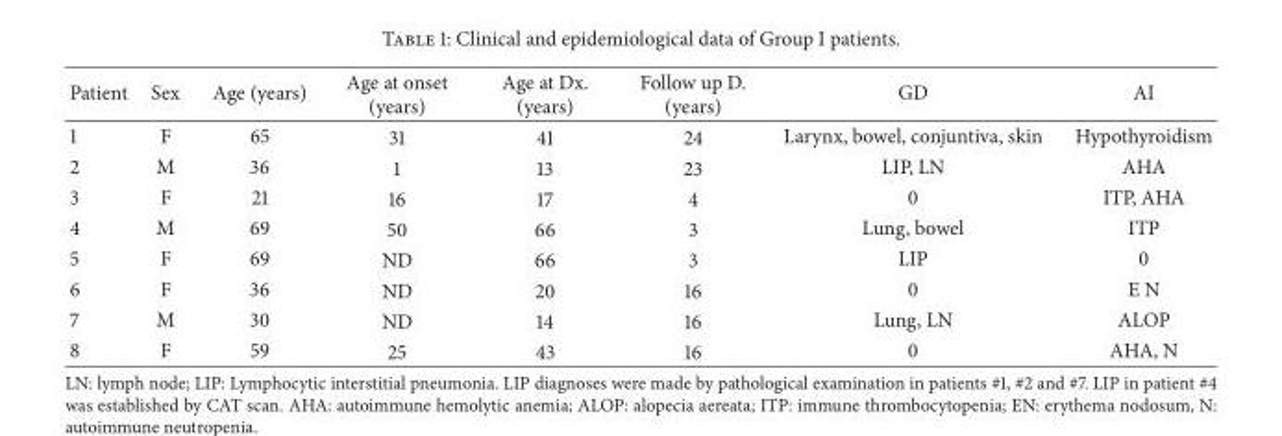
<table><thead><tr><td>Patient</td><td>Sex</td><td>Age (years)</td><td>Age at onset (years)</td><td>Age at Dx. (years)</td><td>Follow up D. (years)</td><td>GD</td><td>AI</td></tr></thead><tbody><tr><td>1</td><td>F</td><td>65</td><td>31</td><td>41</td><td>24</td><td>Larynx, bowel, conjuntiva, skin</td><td>Hypothyroidism</td></tr><tr><td>2</td><td>M</td><td>36</td><td>1</td><td>13</td><td>23</td><td>LIP, LN</td><td>AHA</td></tr><tr><td>3</td><td>F</td><td>21</td><td>16</td><td>17</td><td>4</td><td>0</td><td>ITP, AHA</td></tr><tr><td>4</td><td>M</td><td>69</td><td>50</td><td>66</td><td>3</td><td>Lung, bowel</td><td>ITP</td></tr><tr><td>5</td><td>F</td><td>69</td><td>ND</td><td>66</td><td>3</td><td>LIP</td><td>0</td></tr><tr><td>6</td><td>F</td><td>36</td><td>ND</td><td>20</td><td>16</td><td>0</td><td>E N</td></tr><tr><td>7</td><td>M</td><td>30</td><td>ND</td><td>14</td><td>16</td><td>Lung, LN</td><td>ALOP</td></tr><tr><td>8</td><td>F</td><td>59</td><td>25</td><td>43</td><td>16</td><td>0</td><td>AHA, N</td></tr></tbody></table>